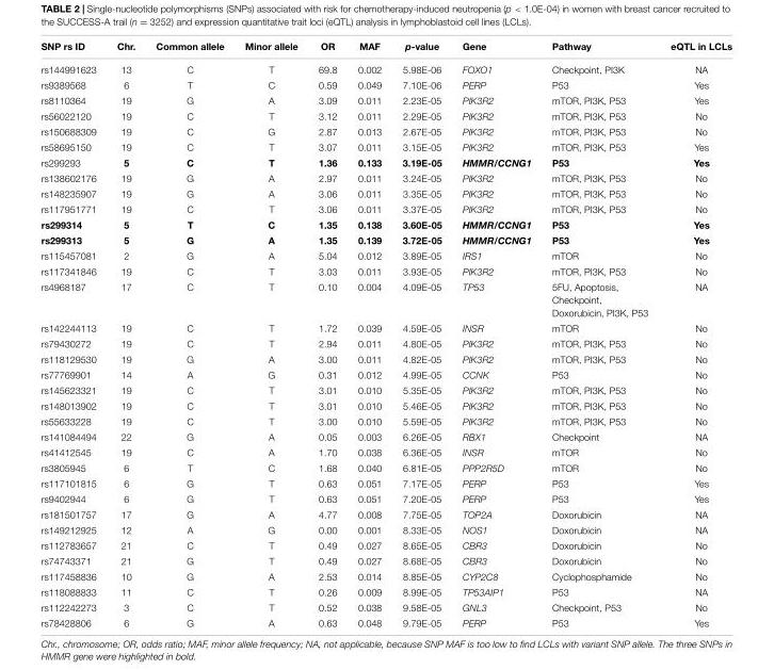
<table><thead><tr><td>SNP rs ID</td><td>Chr.</td><td>Common allele</td><td>Minor allele</td><td>OR</td><td>MAF</td><td>p-value</td><td>Gene</td><td>Pathway</td><td>eQTL in LCLs</td></tr></thead><tbody><tr><td>rs144991623</td><td>13</td><td>C</td><td>T</td><td>69.8</td><td>0.002</td><td>5.98E-06</td><td>FOXO1</td><td>Checkpoint, PI3K</td><td>NA</td></tr><tr><td>rs9389568</td><td>6</td><td>T</td><td>C</td><td>0.59</td><td>0.049</td><td>7.10E-06</td><td>PERP</td><td>P53</td><td>Yes</td></tr><tr><td>rs8110364</td><td>19</td><td>G</td><td>A</td><td>3.09</td><td>0.011</td><td>2.23E-05</td><td>PIK3R2</td><td>mTOR, PI3K, P53</td><td>Yes</td></tr><tr><td>rs56022120</td><td>19</td><td>C</td><td>T</td><td>3.12</td><td>0.011</td><td>2.29E-05</td><td>PIK3R2</td><td>mTOR, PI3K, P53</td><td>No</td></tr><tr><td>rs150688309</td><td>19</td><td>C</td><td>G</td><td>2.87</td><td>0.013</td><td>2.67E-05</td><td>PIK3R2</td><td>mTOR, PI3K, P53</td><td>No</td></tr><tr><td>rs58695150</td><td>19</td><td>C</td><td>T</td><td>3.07</td><td>0.011</td><td>3.15E-05</td><td>PIK3R2</td><td>mTOR, PI3K, P53</td><td>Yes</td></tr><tr><td>rs299293</td><td>5</td><td>C</td><td>T</td><td>1.36</td><td>0.133</td><td>3.19E-05</td><td>HMMR/CCNG1</td><td>P53</td><td>Yes</td></tr><tr><td>rs138602176</td><td>19</td><td>G</td><td>A</td><td>2.97</td><td>0.011</td><td>3.24E-05</td><td>PIK3R2</td><td>mTOR, PI3K, P53</td><td>No</td></tr><tr><td>rs148235907</td><td>19</td><td>G</td><td>A</td><td>3.06</td><td>0.011</td><td>3.35E-05</td><td>PIK3R2</td><td>mTOR, PI3K, P53</td><td>No</td></tr><tr><td>rs117951771</td><td>19</td><td>C</td><td>T</td><td>3.06</td><td>0.011</td><td>3.37E-05</td><td>PIK3R2</td><td>mTOR, PI3K, P53</td><td>No</td></tr><tr><td>rs299314</td><td>5</td><td>T</td><td>C</td><td>1.35</td><td>0.138</td><td>3.60E-05</td><td>HMMR/CCNG1</td><td>P53</td><td>Yes</td></tr><tr><td>rs299313</td><td>5</td><td>G</td><td>A</td><td>1.35</td><td>0.139</td><td>3.72E-05</td><td>HMMR/CCNG1</td><td>P53</td><td>Yes</td></tr><tr><td>rs115457081</td><td>2</td><td>G</td><td>A</td><td>5.04</td><td>0.012</td><td>3.89E-05</td><td>IRS1</td><td>mTOR</td><td>No</td></tr><tr><td>rs117341846</td><td>19</td><td>C</td><td>T</td><td>3.03</td><td>0.011</td><td>3.93E-05</td><td>PIK3R2</td><td>mTOR, PI3K, P53</td><td>No</td></tr><tr><td>rs4968187</td><td>17</td><td>C</td><td>T</td><td>0.10</td><td>0.004</td><td>4.09E-05</td><td>TP53</td><td>5FU, Apoptosis, Checkpoint, Doxorubicin, PI3K, P53</td><td>NA</td></tr><tr><td>rs142244113</td><td>19</td><td>C</td><td>T</td><td>1.72</td><td>0.039</td><td>4.59E-05</td><td>INSR</td><td>mTOR</td><td>No</td></tr><tr><td>rs79430272</td><td>19</td><td>C</td><td>T</td><td>2.94</td><td>0.011</td><td>4.80E-05</td><td>PIK3R2</td><td>mTOR, PI3K, P53</td><td>No</td></tr><tr><td>rs118129530</td><td>19</td><td>G</td><td>A</td><td>3.00</td><td>0.011</td><td>4.82E-05</td><td>PIK3R2</td><td>mTOR, PI3K, P53</td><td>No</td></tr><tr><td>rs77769901</td><td>14</td><td>A</td><td>G</td><td>0.31</td><td>0.012</td><td>4.99E-05</td><td>CCNK</td><td>P53</td><td>No</td></tr><tr><td>rs145623321</td><td>19</td><td>C</td><td>T</td><td>3.01</td><td>0.010</td><td>5.35E-05</td><td>PIK3R2</td><td>mTOR, PI3K, P53</td><td>No</td></tr><tr><td>rs148013902</td><td>19</td><td>C</td><td>T</td><td>3.01</td><td>0.010</td><td>5.46E-05</td><td>PIK3R2</td><td>mTOR, PI3K, P53</td><td>No</td></tr><tr><td>rs55633228</td><td>19</td><td>C</td><td>T</td><td>3.00</td><td>0.010</td><td>5.59E-05</td><td>PIK3R2</td><td>mTOR, PI3K, P53</td><td>No</td></tr><tr><td>rs141084494</td><td>22</td><td>G</td><td>A</td><td>0.05</td><td>0.003</td><td>6.26E-05</td><td>RBX1</td><td>Checkpoint</td><td>NA</td></tr><tr><td>rs41412545</td><td>19</td><td>C</td><td>A</td><td>1.70</td><td>0.038</td><td>6.36E-05</td><td>INSR</td><td>mTOR</td><td>No</td></tr><tr><td>rs3805945</td><td>6</td><td>T</td><td>C</td><td>1.68</td><td>0.040</td><td>6.81E-05</td><td>PPP2R5D</td><td>mTOR</td><td>No</td></tr><tr><td>rs117101815</td><td>6</td><td>G</td><td>T</td><td>0.63</td><td>0.051</td><td>7.17E-05</td><td>PERP</td><td>P53</td><td>Yes</td></tr><tr><td>rs9402944</td><td>6</td><td>G</td><td>T</td><td>0.63</td><td>0.051</td><td>7.20E-05</td><td>PERP</td><td>P53</td><td>Yes</td></tr><tr><td>rs181501757</td><td>17</td><td>G</td><td>A</td><td>4.77</td><td>0.008</td><td>7.75E-05</td><td>TOP2A</td><td>Doxorubicin</td><td>NA</td></tr><tr><td>rs149212925</td><td>12</td><td>A</td><td>G</td><td>0.00</td><td>0.001</td><td>8.33E-05</td><td>NOS1</td><td>Doxorubicin</td><td>NA</td></tr><tr><td>rs112783657</td><td>21</td><td>C</td><td>T</td><td>0.49</td><td>0.027</td><td>8.65E-05</td><td>CBR3</td><td>Doxorubicin</td><td>No</td></tr><tr><td>rs74743371</td><td>21</td><td>G</td><td>T</td><td>0.49</td><td>0.027</td><td>8.68E-05</td><td>CBR3</td><td>Doxorubicin</td><td>No</td></tr><tr><td>rs117458836</td><td>10</td><td>G</td><td>A</td><td>2.53</td><td>0.014</td><td>8.85E-05</td><td>CYP2C8</td><td>Cyclophosphamide</td><td>No</td></tr><tr><td>rs118088833</td><td>11</td><td>C</td><td>T</td><td>0.26</td><td>0.009</td><td>8.99E-05</td><td>TP53AIP1</td><td>P53</td><td>NA</td></tr><tr><td>rs112242273</td><td>3</td><td>C</td><td>T</td><td>0.52</td><td>0.038</td><td>9.58E-05</td><td>GNL3</td><td>Checkpoint, P53</td><td>No</td></tr><tr><td>rs78428806</td><td>6</td><td>G</td><td>A</td><td>0.63</td><td>0.048</td><td>9.79E-05</td><td>PERP</td><td>P53</td><td>Yes</td></tr></tbody></table>